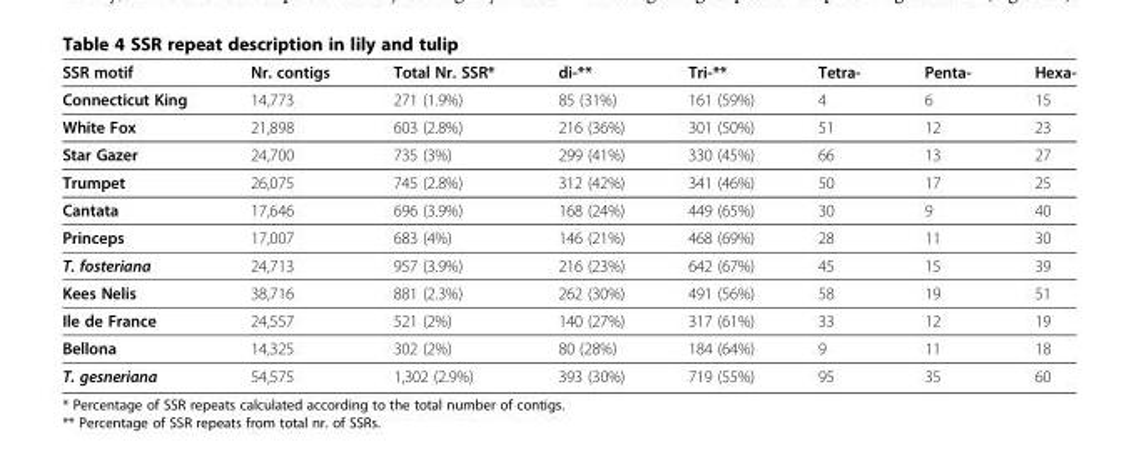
<table><thead><tr><td>SSR motif</td><td>Nr. contigs</td><td>Total Nr. SSR*</td><td>di-**</td><td>Tri-**</td><td>Tetra-</td><td>Penta-</td><td>Hexa-</td></tr></thead><tbody><tr><td>Connecticut King</td><td>14,773</td><td>271 (1.9%)</td><td>85 (31%)</td><td>161 (59%)</td><td>4</td><td>6</td><td>15</td></tr><tr><td>White Fox</td><td>21,898</td><td>603 (2.8%)</td><td>216 (36%)</td><td>301 (50%)</td><td>51</td><td>12</td><td>23</td></tr><tr><td>Star Gazer</td><td>24,700</td><td>735 (3%)</td><td>299 (41%)</td><td>330 (45%)</td><td>66</td><td>13</td><td>27</td></tr><tr><td>Trumpet</td><td>26,075</td><td>745 (2.8%)</td><td>312 (42%)</td><td>341 (46%)</td><td>50</td><td>17</td><td>25</td></tr><tr><td>Cantata</td><td>17,646</td><td>696 (3.9%)</td><td>168 (24%)</td><td>449 (65%)</td><td>30</td><td>9</td><td>40</td></tr><tr><td>Princeps</td><td>17,007</td><td>683 (4%)</td><td>146 (21%)</td><td>468 (69%)</td><td>28</td><td>11</td><td>30</td></tr><tr><td>T. fosteriana</td><td>24,713</td><td>957 (3.9%)</td><td>216 (23%)</td><td>642 (67%)</td><td>45</td><td>15</td><td>39</td></tr><tr><td>Kees Nelis</td><td>38,716</td><td>881 (2.3%)</td><td>262 (30%)</td><td>491 (56%)</td><td>58</td><td>19</td><td>51</td></tr><tr><td>Ile de France</td><td>24,557</td><td>521 (2%)</td><td>140 (27%)</td><td>317 (61%)</td><td>33</td><td>12</td><td>19</td></tr><tr><td>Bellona</td><td>14,325</td><td>302 (2%)</td><td>80 (28%)</td><td>184 (64%)</td><td>9</td><td>11</td><td>18</td></tr><tr><td>T. gesneriana</td><td>54,575</td><td>1,302 (2.9%)</td><td>393 (30%)</td><td>719 (55%)</td><td>95</td><td>35</td><td>60</td></tr></tbody></table>